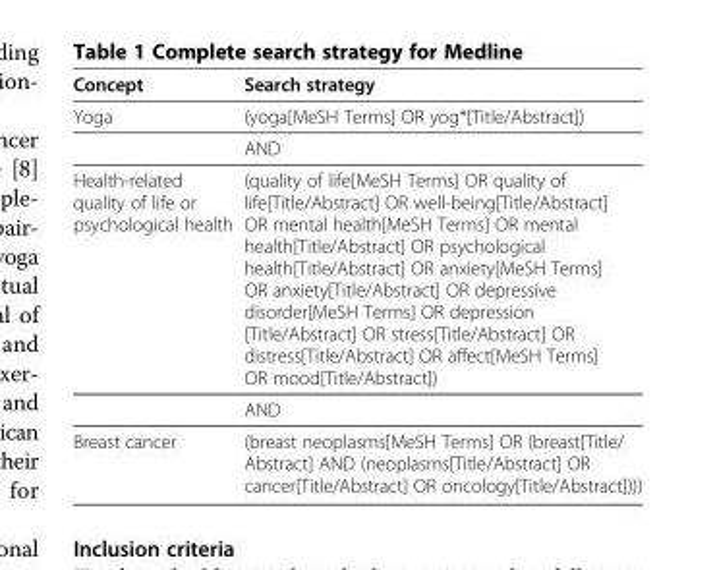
<table><thead><tr><td>Concept</td><td>Search strategy</td></tr></thead><tbody><tr><td rowspan="2">Yoga</td><td>(yoga[MeSH Terms] OR yog*[Title/Abstract])</td></tr><tr><td>AND</td></tr><tr><td rowspan="2">Health-related quality of life or psychological health</td><td>(quality of life[MeSH Terms] OR quality of life[Title/Abstract] OR well-being[Title/Abstract] OR mental health[MeSH Terms] OR mental health[Title/Abstract] OR psychological health[Title/Abstract] OR anxiety[MeSH Terms] OR anxiety[Title/Abstract] OR depressive disorder[MeSH Terms] OR depression [Title/Abstract] OR stress[Title/Abstract] OR distress[Title/Abstract] OR affect[MeSH Terms] OR mood[Title/Abstract])</td></tr><tr><td>AND</td></tr><tr><td>Breast cancer</td><td>(breast neoplasms[MeSH Terms] OR (breast[Title/ Abstract] AND (neoplasms[Title/Abstract] OR cancer[Title/Abstract] OR oncology[Title/Abstract])))</td></tr></tbody></table>